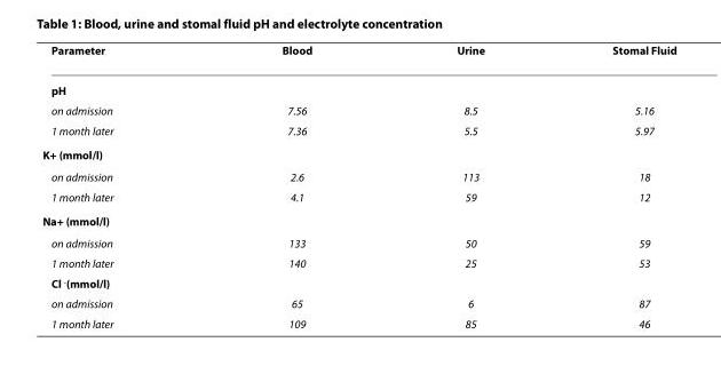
<table><thead><tr><td>Parameter</td><td>Blood</td><td>Urine</td><td>Stomal Fluid</td></tr></thead><tbody><tr><td colspan="4">pH</td></tr><tr><td>on admission</td><td>7.56</td><td>8.5</td><td>5.16</td></tr><tr><td>1 month later</td><td>7.36</td><td>5.5</td><td>5.97</td></tr><tr><td colspan="4">K<sup>+</sup> (mmol/l)</td></tr><tr><td>on admission</td><td>2.6</td><td>113</td><td>18</td></tr><tr><td>1 month later</td><td>4.1</td><td>59</td><td>12</td></tr><tr><td colspan="4">Na<sup>+</sup> (mmol/l)</td></tr><tr><td>on admission</td><td>133</td><td>50</td><td>59</td></tr><tr><td>1 month later</td><td>140</td><td>25</td><td>53</td></tr><tr><td colspan="4">Cl <sup>-</sup>(mmol/l)</td></tr><tr><td>on admission</td><td>65</td><td>6</td><td>87</td></tr><tr><td>1 month later</td><td>109</td><td>85</td><td>46</td></tr></tbody></table>